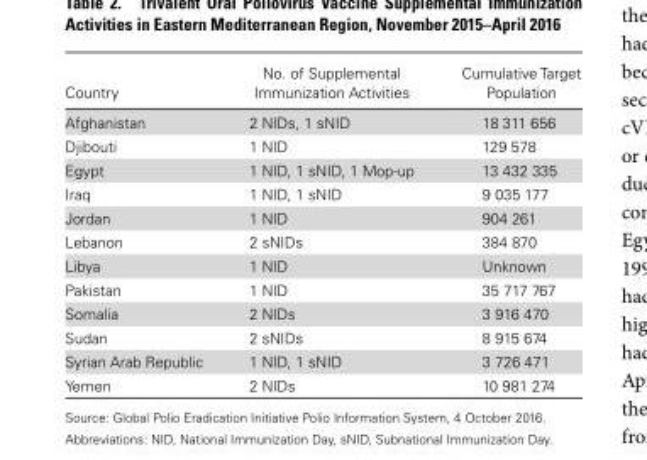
<table><thead><tr><td>Country</td><td>No. of Supplemental Immunization Activities</td><td>Cumulative Target Population</td></tr></thead><tbody><tr><td>Afghanistan</td><td>2 NIDs, 1 sNID</td><td>18 311 656</td></tr><tr><td>Djibouti</td><td>1 NID</td><td>129 578</td></tr><tr><td>Egypt</td><td>1 NID, 1 sNID, 1 Mop-up</td><td>13 432 335</td></tr><tr><td>Iraq</td><td>1 NID, 1 sNID</td><td>9 035 177</td></tr><tr><td>Jordan</td><td>1 NID</td><td>904 261</td></tr><tr><td>Lebanon</td><td>2 sNIDs</td><td>384 870</td></tr><tr><td>Libya</td><td>1 NID</td><td>Unknown</td></tr><tr><td>Pakistan</td><td>1 NID</td><td>35 717 767</td></tr><tr><td>Somalia</td><td>2 NIDs</td><td>3 916 470</td></tr><tr><td>Sudan</td><td>2 sNIDs</td><td>8 915 674</td></tr><tr><td>Syrian Arab Republic</td><td>1 NID, 1 sNID</td><td>3 726 471</td></tr><tr><td>Yemen</td><td>2 NIDs</td><td>10 981 274</td></tr></tbody></table>